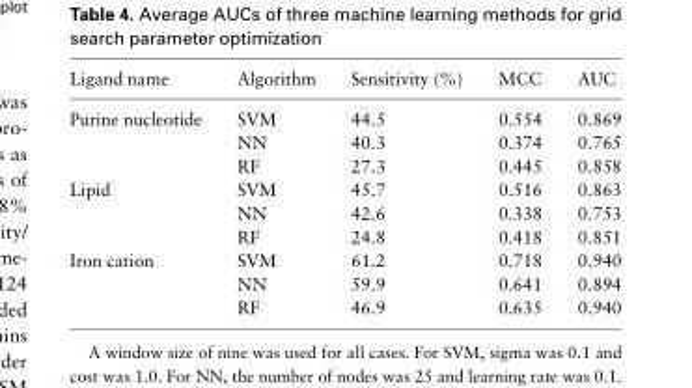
<table><thead><tr><td>Ligand name</td><td>Algorithm</td><td>Sensitivity (%)</td><td>MCC</td><td>AUC</td></tr></thead><tbody><tr><td rowspan="3">Purine nucleotide</td><td>SVM</td><td>44.5</td><td>0.554</td><td>0.869</td></tr><tr><td>NN</td><td>40.3</td><td>0.374</td><td>0.765</td></tr><tr><td>RF</td><td>27.3</td><td>0.445</td><td>0.858</td></tr><tr><td rowspan="3">Lipid</td><td>SVM</td><td>45.7</td><td>0.516</td><td>0.863</td></tr><tr><td>NN</td><td>42.6</td><td>0.338</td><td>0.753</td></tr><tr><td>RF</td><td>24.8</td><td>0.418</td><td>0.851</td></tr><tr><td rowspan="3">Iron cation</td><td>SVM</td><td>61.2</td><td>0.718</td><td>0.940</td></tr><tr><td>NN</td><td>59.9</td><td>0.641</td><td>0.894</td></tr><tr><td>RF</td><td>46.9</td><td>0.635</td><td>0.940</td></tr></tbody></table>